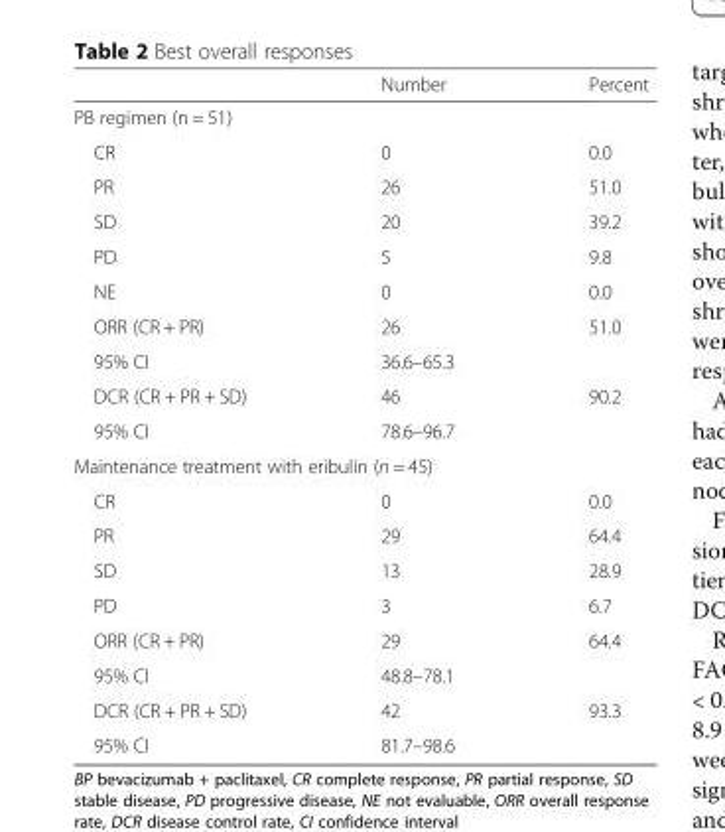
<table><thead><tr><td></td><td>Number</td><td>Percent</td></tr></thead><tbody><tr><td colspan="3">PB regimen (n = 51)</td></tr><tr><td>CR</td><td>0</td><td>0.0</td></tr><tr><td>PR</td><td>26</td><td>51.0</td></tr><tr><td>SD</td><td>20</td><td>39.2</td></tr><tr><td>PD</td><td>5</td><td>9.8</td></tr><tr><td>NE</td><td>0</td><td>0.0</td></tr><tr><td>ORR (CR + PR)</td><td>26</td><td>51.0</td></tr><tr><td>95% CI</td><td>36.6–65.3</td><td></td></tr><tr><td>DCR (CR + PR + SD)</td><td>46</td><td>90.2</td></tr><tr><td>95% CI</td><td>78.6–96.7</td><td></td></tr><tr><td colspan="3">Maintenance treatment with eribulin (n = 45)</td></tr><tr><td>CR</td><td>0</td><td>0.0</td></tr><tr><td>PR</td><td>29</td><td>64.4</td></tr><tr><td>SD</td><td>13</td><td>28.9</td></tr><tr><td>PD</td><td>3</td><td>6.7</td></tr><tr><td>ORR (CR + PR)</td><td>29</td><td>64.4</td></tr><tr><td>95% CI</td><td>48.8–78.1</td><td></td></tr><tr><td>DCR (CR + PR + SD)</td><td>42</td><td>93.3</td></tr><tr><td>95% CI</td><td>81.7–98.6</td><td></td></tr></tbody></table>